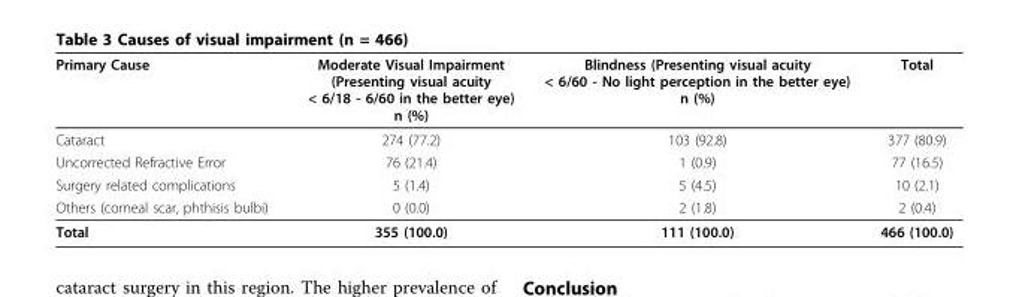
<table><thead><tr><td>Primary Cause</td><td>Moderate Visual Impairment (Presenting visual acuity &lt; 6/18 - 6/60 in the better eye) n (%)</td><td>Blindness (Presenting visual acuity &lt; 6/60 - No light perception in the better eye) n (%)</td><td>Total</td></tr></thead><tbody><tr><td>Cataract</td><td>274 (77.2)</td><td>103 (92.8)</td><td>377 (80.9)</td></tr><tr><td>Uncorrected Refractive Error</td><td>76 (21.4)</td><td>1 (0.9)</td><td>77 (16.5)</td></tr><tr><td>Surgery related complications</td><td>5 (1.4)</td><td>5 (4.5)</td><td>10 (2.1)</td></tr><tr><td>Others (corneal scar, phthisis bulbi)</td><td>0 (0.0)</td><td>2 (1.8)</td><td>2 (0.4)</td></tr><tr><td>Total</td><td>355 (100.0)</td><td>111 (100.0)</td><td>466 (100.0)</td></tr></tbody></table>